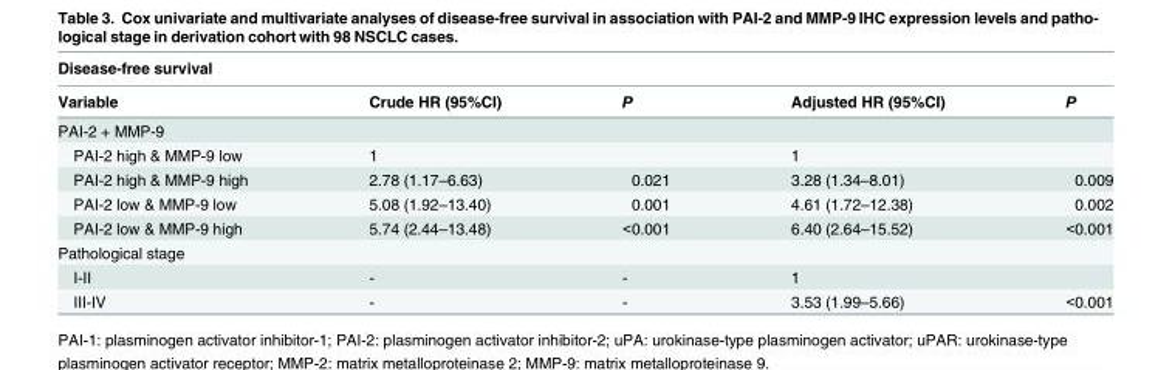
<table><thead><tr><td colspan="5">Disease-free survival</td></tr><tr><td>Variable</td><td>Crude HR (95%CI)</td><td>P</td><td>Adjusted HR (95%CI)</td><td>P</td></tr></thead><tbody><tr><td colspan="5">PAI-2 + MMP-9</td></tr><tr><td>PAI-2 high &amp; MMP-9 low</td><td>1</td><td></td><td>1</td><td></td></tr><tr><td>PAI-2 high &amp; MMP-9 high</td><td>2.78 (1.17–6.63)</td><td>0.021</td><td>3.28 (1.34–8.01)</td><td>0.009</td></tr><tr><td>PAI-2 low &amp; MMP-9 low</td><td>5.08 (1.92–13.40)</td><td>0.001</td><td>4.61 (1.72–12.38)</td><td>0.002</td></tr><tr><td>PAI-2 low &amp; MMP-9 high</td><td>5.74 (2.44–13.48)</td><td>&lt;0.001</td><td>6.40 (2.64–15.52)</td><td>&lt;0.001</td></tr><tr><td colspan="5">Pathological stage</td></tr><tr><td>I-II</td><td>-</td><td>-</td><td>1</td><td></td></tr><tr><td>III-IV</td><td>-</td><td>-</td><td>3.53 (1.99–5.66)</td><td>&lt;0.001</td></tr></tbody></table>